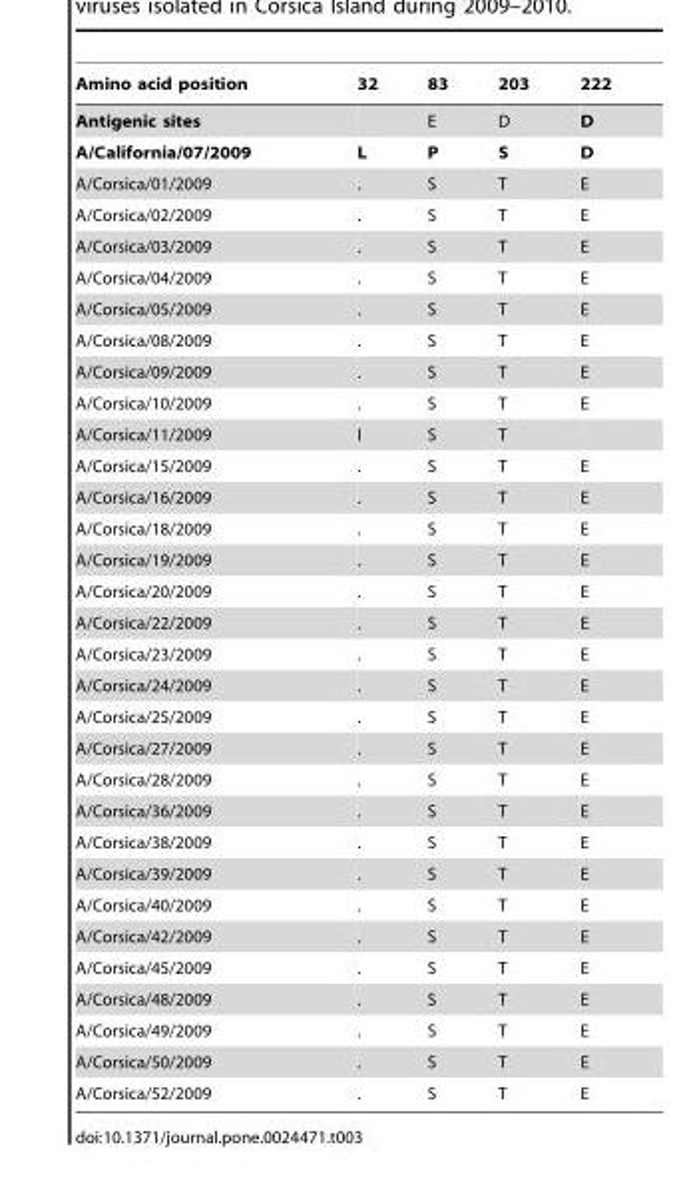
<table><thead><tr><td>Amino acid position</td><td>32</td><td>83</td><td>203</td><td>222</td></tr></thead><tbody><tr><td>Antigenic sites</td><td></td><td>E</td><td>D</td><td>D</td></tr><tr><td>A/California/07/2009</td><td>L</td><td>P</td><td>S</td><td>D</td></tr><tr><td>A/Corsica/01/2009</td><td>.</td><td>S</td><td>T</td><td>E</td></tr><tr><td>A/Corsica/02/2009</td><td>.</td><td>S</td><td>T</td><td>E</td></tr><tr><td>A/Corsica/03/2009</td><td>.</td><td>S</td><td>T</td><td>E</td></tr><tr><td>A/Corsica/04/2009</td><td>.</td><td>S</td><td>T</td><td>E</td></tr><tr><td>A/Corsica/05/2009</td><td>.</td><td>S</td><td>T</td><td>E</td></tr><tr><td>A/Corsica/08/2009</td><td>.</td><td>S</td><td>T</td><td>E</td></tr><tr><td>A/Corsica/09/2009</td><td>.</td><td>S</td><td>T</td><td>E</td></tr><tr><td>A/Corsica/10/2009</td><td>.</td><td>S</td><td>T</td><td>E</td></tr><tr><td>A/Corsica/11/2009</td><td>I</td><td>S</td><td>T</td><td></td></tr><tr><td>A/Corsica/15/2009</td><td>.</td><td>S</td><td>T</td><td>E</td></tr><tr><td>A/Corsica/16/2009</td><td>.</td><td>S</td><td>T</td><td>E</td></tr><tr><td>A/Corsica/18/2009</td><td>.</td><td>S</td><td>T</td><td>E</td></tr><tr><td>A/Corsica/19/2009</td><td>.</td><td>S</td><td>T</td><td>E</td></tr><tr><td>A/Corsica/20/2009</td><td>.</td><td>S</td><td>T</td><td>E</td></tr><tr><td>A/Corsica/22/2009</td><td>.</td><td>S</td><td>T</td><td>E</td></tr><tr><td>A/Corsica/23/2009</td><td>.</td><td>S</td><td>T</td><td>E</td></tr><tr><td>A/Corsica/24/2009</td><td>.</td><td>S</td><td>T</td><td>E</td></tr><tr><td>A/Corsica/25/2009</td><td>.</td><td>S</td><td>T</td><td>E</td></tr><tr><td>A/Corsica/27/2009</td><td>.</td><td>S</td><td>T</td><td>E</td></tr><tr><td>A/Corsica/28/2009</td><td>.</td><td>S</td><td>T</td><td>E</td></tr><tr><td>A/Corsica/36/2009</td><td>.</td><td>S</td><td>T</td><td>E</td></tr><tr><td>A/Corsica/38/2009</td><td>.</td><td>S</td><td>T</td><td>E</td></tr><tr><td>A/Corsica/39/2009</td><td>.</td><td>S</td><td>T</td><td>E</td></tr><tr><td>A/Corsica/40/2009</td><td>.</td><td>S</td><td>T</td><td>E</td></tr><tr><td>A/Corsica/42/2009</td><td>.</td><td>S</td><td>T</td><td>E</td></tr><tr><td>A/Corsica/45/2009</td><td>.</td><td>S</td><td>T</td><td>E</td></tr><tr><td>A/Corsica/48/2009</td><td>.</td><td>S</td><td>T</td><td>E</td></tr><tr><td>A/Corsica/49/2009</td><td>.</td><td>S</td><td>T</td><td>E</td></tr><tr><td>A/Corsica/50/2009</td><td>.</td><td>S</td><td>T</td><td>E</td></tr><tr><td>A/Corsica/52/2009</td><td>.</td><td>S</td><td>T</td><td>E</td></tr></tbody></table>